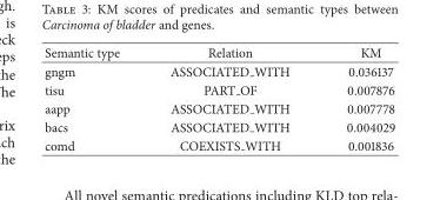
<table><thead><tr><td>Semantic type</td><td>Relation</td><td>KM</td></tr></thead><tbody><tr><td>gngm</td><td>ASSOCIATED WITH</td><td>0.036137</td></tr><tr><td>tisu</td><td>PART OF</td><td>0.007876</td></tr><tr><td>aapp</td><td>ASSOCIATED WITH</td><td>0.007778</td></tr><tr><td>bacs</td><td>ASSOCIATED WITH</td><td>0.004029</td></tr><tr><td>comd</td><td>COEXISTS WITH</td><td>0.001836</td></tr></tbody></table>